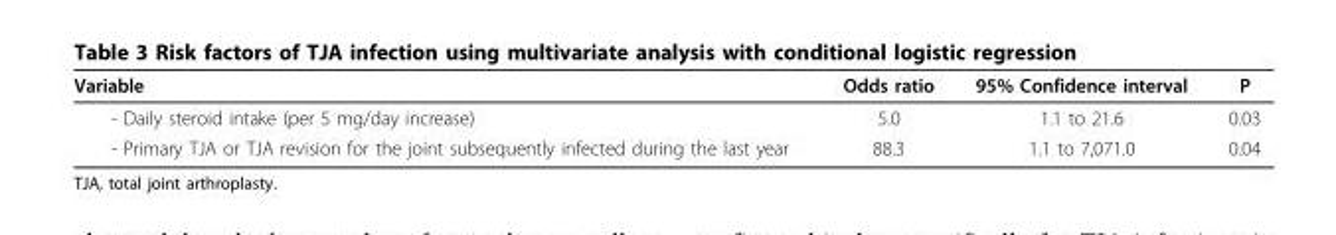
<table><thead><tr><td>Variable</td><td>Odds ratio</td><td>95% Confidence interval</td><td>P</td></tr></thead><tbody><tr><td>- Daily steroid intake (per 5 mg/day increase)</td><td>5.0</td><td>1.1 to 21.6</td><td>0.03</td></tr><tr><td>- Primary TJA or TJA revision for the joint subsequently infected during the last year</td><td>88.3</td><td>1.1 to 7,071.0</td><td>0.04</td></tr></tbody></table>